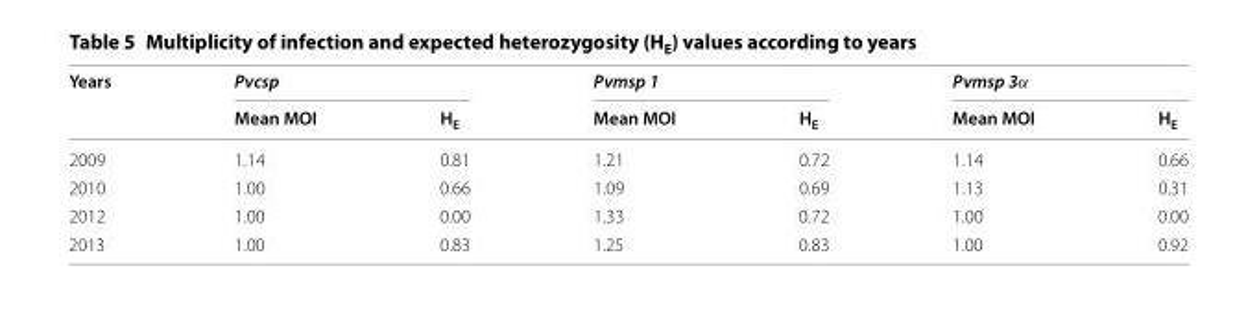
<table><thead><tr><td rowspan="2">Years</td><td colspan="2">Pvcsp</td><td colspan="2">Pvmsp 1</td><td colspan="2">Pvmsp 3α</td></tr><tr><td>Mean MOI</td><td>H<sub>E</sub></td><td>Mean MOI</td><td>H<sub>E</sub></td><td>Mean MOI</td><td>H<sub>E</sub></td></tr></thead><tbody><tr><td>2009</td><td>1.14</td><td>0.81</td><td>1.21</td><td>0.72</td><td>1.14</td><td>0.66</td></tr><tr><td>2010</td><td>1.00</td><td>0.66</td><td>1.09</td><td>0.69</td><td>1.13</td><td>0.31</td></tr><tr><td>2012</td><td>1.00</td><td>0.00</td><td>1.33</td><td>0.72</td><td>1.00</td><td>0.00</td></tr><tr><td>2013</td><td>1.00</td><td>0.83</td><td>1.25</td><td>0.83</td><td>1.00</td><td>0.92</td></tr></tbody></table>